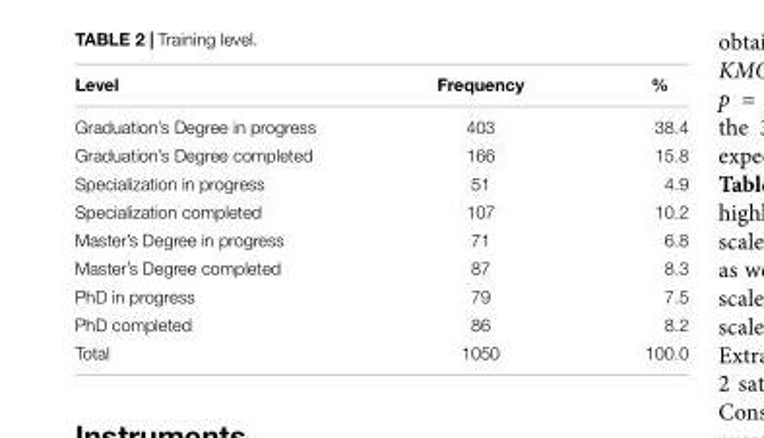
<table><thead><tr><td>Level</td><td>Frequency</td><td>%</td></tr></thead><tbody><tr><td>Graduation’s Degree in progress</td><td>403</td><td>38.4</td></tr><tr><td>Graduation’s Degree completed</td><td>166</td><td>15.8</td></tr><tr><td>Specialization in progress</td><td>51</td><td>4.9</td></tr><tr><td>Specialization completed</td><td>107</td><td>10.2</td></tr><tr><td>Master’s Degree in progress</td><td>71</td><td>6.8</td></tr><tr><td>Master’s Degree completed</td><td>87</td><td>8.3</td></tr><tr><td>PhD in progress</td><td>79</td><td>7.5</td></tr><tr><td>PhD completed</td><td>86</td><td>8.2</td></tr><tr><td>Total</td><td>1050</td><td>100.0</td></tr></tbody></table>